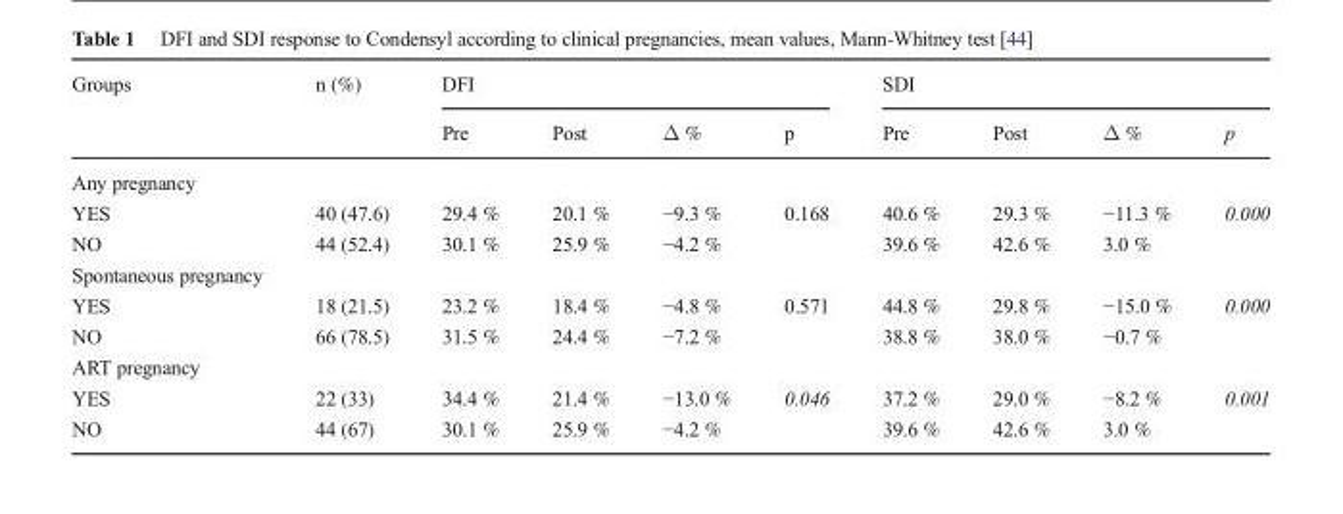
<table><thead><tr><td rowspan="2">Groups</td><td rowspan="2">n (%)</td><td colspan="4">DFI</td><td colspan="4">SDI</td></tr><tr><td>Pre</td><td>Post</td><td>Δ %</td><td>p</td><td>Pre</td><td>Post</td><td>Δ %</td><td>p</td></tr></thead><tbody><tr><td colspan="10">Any pregnancy</td></tr><tr><td>YES</td><td>40 (47.6)</td><td>29.4 %</td><td>20.1 %</td><td>−9.3 %</td><td>0.168</td><td>40.6 %</td><td>29.3 %</td><td>−11.3 %</td><td>0.000</td></tr><tr><td>NO</td><td>44 (52.4)</td><td>30.1 %</td><td>25.9 %</td><td>−4.2 %</td><td></td><td>39.6 %</td><td>42.6 %</td><td>3.0 %</td><td></td></tr><tr><td colspan="10">Spontaneous pregnancy</td></tr><tr><td>YES</td><td>18 (21.5)</td><td>23.2 %</td><td>18.4 %</td><td>−4.8 %</td><td>0.571</td><td>44.8 %</td><td>29.8 %</td><td>−15.0 %</td><td>0.000</td></tr><tr><td>NO</td><td>66 (78.5)</td><td>31.5 %</td><td>24.4 %</td><td>−7.2 %</td><td></td><td>38.8 %</td><td>38.0 %</td><td>−0.7 %</td><td></td></tr><tr><td colspan="10">ART pregnancy</td></tr><tr><td>YES</td><td>22 (33)</td><td>34.4 %</td><td>21.4 %</td><td>−13.0 %</td><td>0.046</td><td>37.2 %</td><td>29.0 %</td><td>−8.2 %</td><td>0.001</td></tr><tr><td>NO</td><td>44 (67)</td><td>30.1 %</td><td>25.9 %</td><td>−4.2 %</td><td></td><td>39.6 %</td><td>42.6 %</td><td>3.0 %</td><td></td></tr></tbody></table>